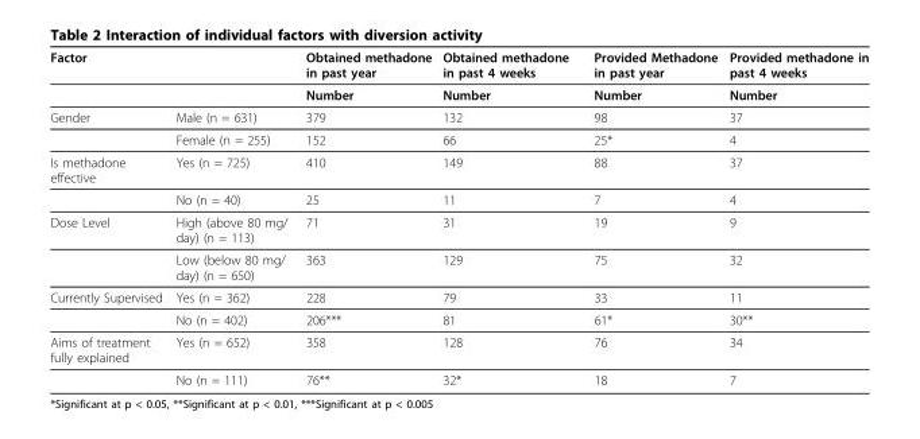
<table><thead><tr><td>Factor</td><td></td><td>Obtained methadone in past year</td><td>Obtained methadone in past 4 weeks</td><td>Provided Methadone in past year</td><td>Provided methadone in past 4 weeks</td></tr></thead><tbody><tr><td></td><td></td><td>Number</td><td>Number</td><td>Number</td><td>Number</td></tr><tr><td rowspan="2">Gender</td><td>Male (n = 631)</td><td>379</td><td>132</td><td>98</td><td>37</td></tr><tr><td>Female (n = 255)</td><td>152</td><td>66</td><td>25*</td><td>4</td></tr><tr><td rowspan="2">Is methadone effective</td><td>Yes (n = 725)</td><td>410</td><td>149</td><td>88</td><td>37</td></tr><tr><td>No (n = 40)</td><td>25</td><td>11</td><td>7</td><td>4</td></tr><tr><td rowspan="2">Dose Level</td><td>High (above 80 mg/ day) (n = 113)</td><td>71</td><td>31</td><td>19</td><td>9</td></tr><tr><td>Low (below 80 mg/ day) (n = 650)</td><td>363</td><td>129</td><td>75</td><td>32</td></tr><tr><td rowspan="2">Currently Supervised</td><td>Yes (n = 362)</td><td>228</td><td>79</td><td>33</td><td>11</td></tr><tr><td>No (n = 402)</td><td>206***</td><td>81</td><td>61*</td><td>30**</td></tr><tr><td rowspan="2">Aims of treatment fully explained</td><td>Yes (n = 652)</td><td>358</td><td>128</td><td>76</td><td>34</td></tr><tr><td>No (n = 111)</td><td>76**</td><td>32*</td><td>18</td><td>7</td></tr></tbody></table>